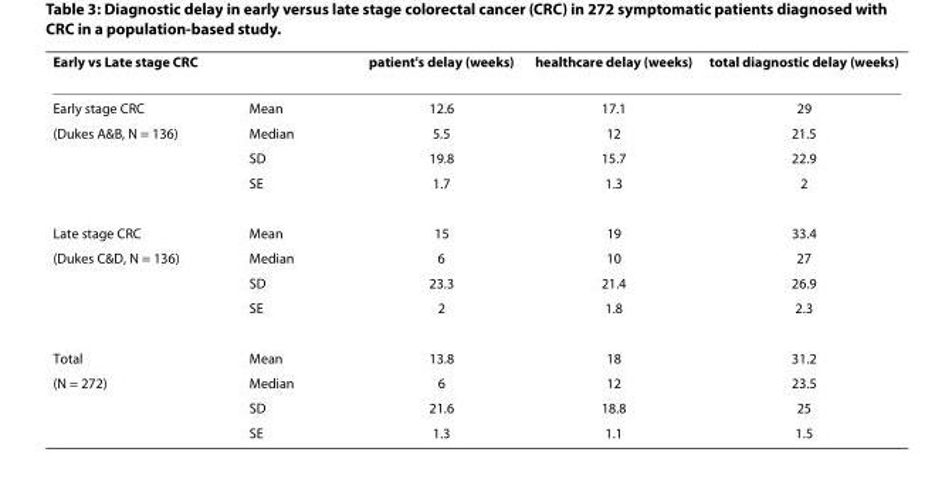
<table><thead><tr><td>Early vs Late stage CRC</td><td></td><td>patient&#x27;s delay (weeks)</td><td>healthcare delay (weeks)</td><td>total diagnostic delay (weeks)</td></tr></thead><tbody><tr><td>Early stage CRC</td><td>Mean</td><td>12.6</td><td>17.1</td><td>29</td></tr><tr><td rowspan="3">(Dukes A&amp;B, N = 136)</td><td>Median</td><td>5.5</td><td>12</td><td>21.5</td></tr><tr><td>SD</td><td>19.8</td><td>15.7</td><td>22.9</td></tr><tr><td>SE</td><td>1.7</td><td>1.3</td><td>2</td></tr><tr><td>Late stage CRC</td><td>Mean</td><td>15</td><td>19</td><td>33.4</td></tr><tr><td rowspan="3">(Dukes C&amp;D, N = 136)</td><td>Median</td><td>6</td><td>10</td><td>27</td></tr><tr><td>SD</td><td>23.3</td><td>21.4</td><td>26.9</td></tr><tr><td>SE</td><td>2</td><td>1.8</td><td>2.3</td></tr><tr><td>Total</td><td>Mean</td><td>13.8</td><td>18</td><td>31.2</td></tr><tr><td rowspan="3">(N = 272)</td><td>Median</td><td>6</td><td>12</td><td>23.5</td></tr><tr><td>SD</td><td>21.6</td><td>18.8</td><td>25</td></tr><tr><td>SE</td><td>1.3</td><td>1.1</td><td>1.5</td></tr></tbody></table>